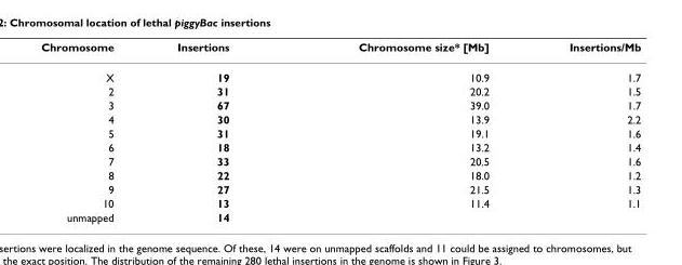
<table><thead><tr><td>Chromosome</td><td>Insertions</td><td>Chromosome size* [Mb]</td><td>Insertions/Mb</td></tr></thead><tbody><tr><td>X</td><td>19</td><td>10.9</td><td>1.7</td></tr><tr><td>2</td><td>31</td><td>20.2</td><td>1.5</td></tr><tr><td>3</td><td>67</td><td>39.0</td><td>1.7</td></tr><tr><td>4</td><td>30</td><td>13.9</td><td>2.2</td></tr><tr><td>5</td><td>31</td><td>19.1</td><td>1.6</td></tr><tr><td>6</td><td>18</td><td>13.2</td><td>1.4</td></tr><tr><td>7</td><td>33</td><td>20.5</td><td>1.6</td></tr><tr><td>8</td><td>22</td><td>18.0</td><td>1.2</td></tr><tr><td>9</td><td>27</td><td>21.5</td><td>1.3</td></tr><tr><td>10</td><td>13</td><td>11.4</td><td>1.1</td></tr><tr><td>unmapped</td><td>14</td><td></td><td></td></tr></tbody></table>